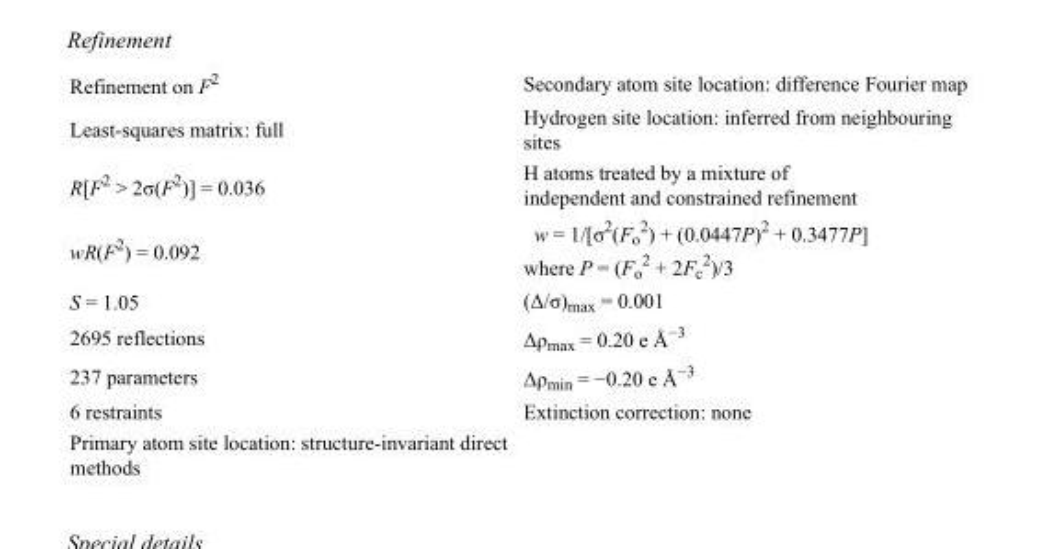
<table><tbody><tr><td>Refinement on F<sup>2</sup></td><td>Secondary atom site location: difference Fourier map</td></tr><tr><td>Least-squares matrix: full</td><td>Hydrogen site location: inferred from neighbouring sites</td></tr><tr><td>R[F<sup>2</sup> &gt; 2σ(F<sup>2</sup>)] = 0.036</td><td>H atoms treated by a mixture of independent and constrained refinement</td></tr><tr><td>wR(F<sup>2</sup>) = 0.092</td><td>w = 1/[σ<sup>2</sup>(F<sub>o</sub> <sup>2</sup>) + (0.0447P)<sup>2</sup> + 0.3477P] where P = (F<sub>o</sub> <sup>2</sup> + 2F<sub>c</sub> <sup>2</sup>)/3</td></tr><tr><td>S = 1.05</td><td>(Δ/σ)<sub>max</sub> = 0.001</td></tr><tr><td>2695 reflections</td><td>Δρ<sub>max</sub> = 0.20 e Å<sup>−3</sup></td></tr><tr><td>237 parameters</td><td>Δρ<sub>min</sub> = −0.20 e Å<sup>−3</sup></td></tr><tr><td>6 restraints</td><td>Extinction correction: none</td></tr><tr><td>Primary atom site location: structure-invariant direct methods</td><td></td></tr></tbody></table>